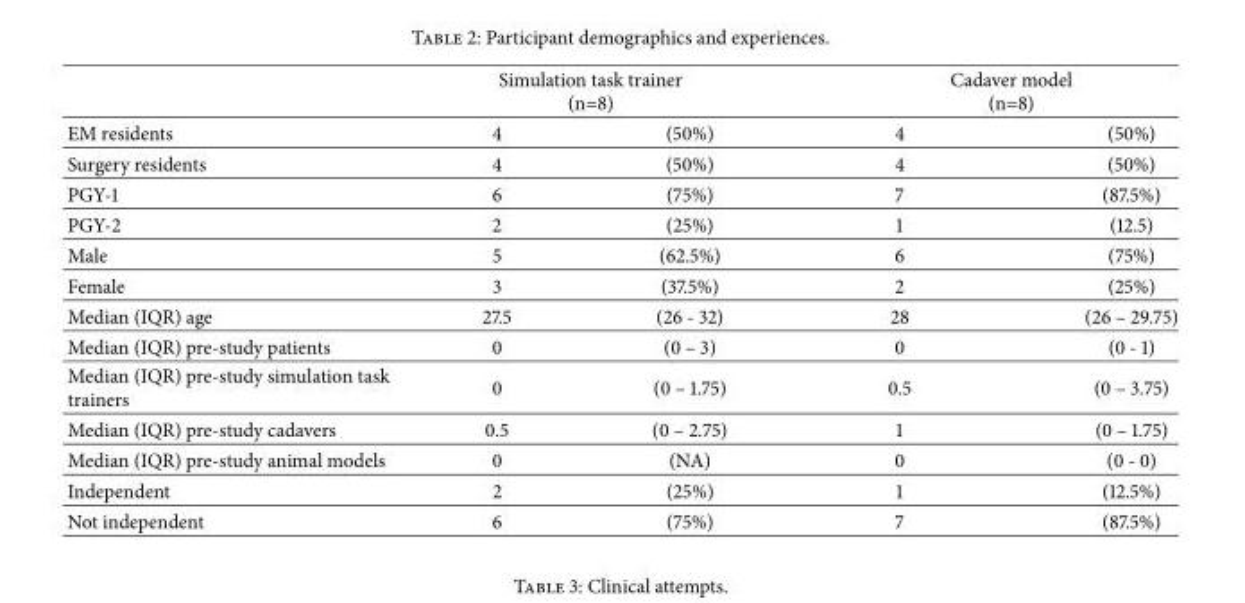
<table><thead><tr><td rowspan="2">EM residents</td><td colspan="2">Simulation task trainer (n=8)</td><td colspan="2">Cadaver model (n=8)</td></tr><tr><td>4</td><td>(50%)</td><td>4</td><td>(50%)</td></tr></thead><tbody><tr><td>Surgery residents</td><td>4</td><td>(50%)</td><td>4</td><td>(50%)</td></tr><tr><td>PGY-1</td><td>6</td><td>(75%)</td><td>7</td><td>(87.5%)</td></tr><tr><td>PGY-2</td><td>2</td><td>(25%)</td><td>1</td><td>(12.5)</td></tr><tr><td>Male</td><td>5</td><td>(62.5%)</td><td>6</td><td>(75%)</td></tr><tr><td>Female</td><td>3</td><td>(37.5%)</td><td>2</td><td>(25%)</td></tr><tr><td>Median (IQR) age</td><td>27.5</td><td>(26 - 32)</td><td>28</td><td>(26 – 29.75)</td></tr><tr><td>Median (IQR) pre-study patients</td><td>0</td><td>(0 – 3)</td><td>0</td><td>(0 - 1)</td></tr><tr><td>Median (IQR) pre-study simulation task trainers</td><td>0</td><td>(0 – 1.75)</td><td>0.5</td><td>(0 – 3.75)</td></tr><tr><td>Median (IQR) pre-study cadavers</td><td>0.5</td><td>(0 – 2.75)</td><td>1</td><td>(0 – 1.75)</td></tr><tr><td>Median (IQR) pre-study animal models</td><td>0</td><td>(NA)</td><td>0</td><td>(0 - 0)</td></tr><tr><td>Independent</td><td>2</td><td>(25%)</td><td>1</td><td>(12.5%)</td></tr><tr><td>Not independent</td><td>6</td><td>(75%)</td><td>7</td><td>(87.5%)</td></tr></tbody></table>